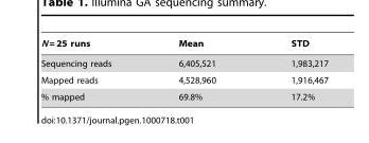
<table><thead><tr><td>N = 25 runs</td><td>Mean</td><td>STD</td></tr></thead><tbody><tr><td>Sequencing reads</td><td>6,405,521</td><td>1,983,217</td></tr><tr><td>Mapped reads</td><td>4,528,960</td><td>1,916,467</td></tr><tr><td>% mapped</td><td>69.8%</td><td>17.2%</td></tr></tbody></table>